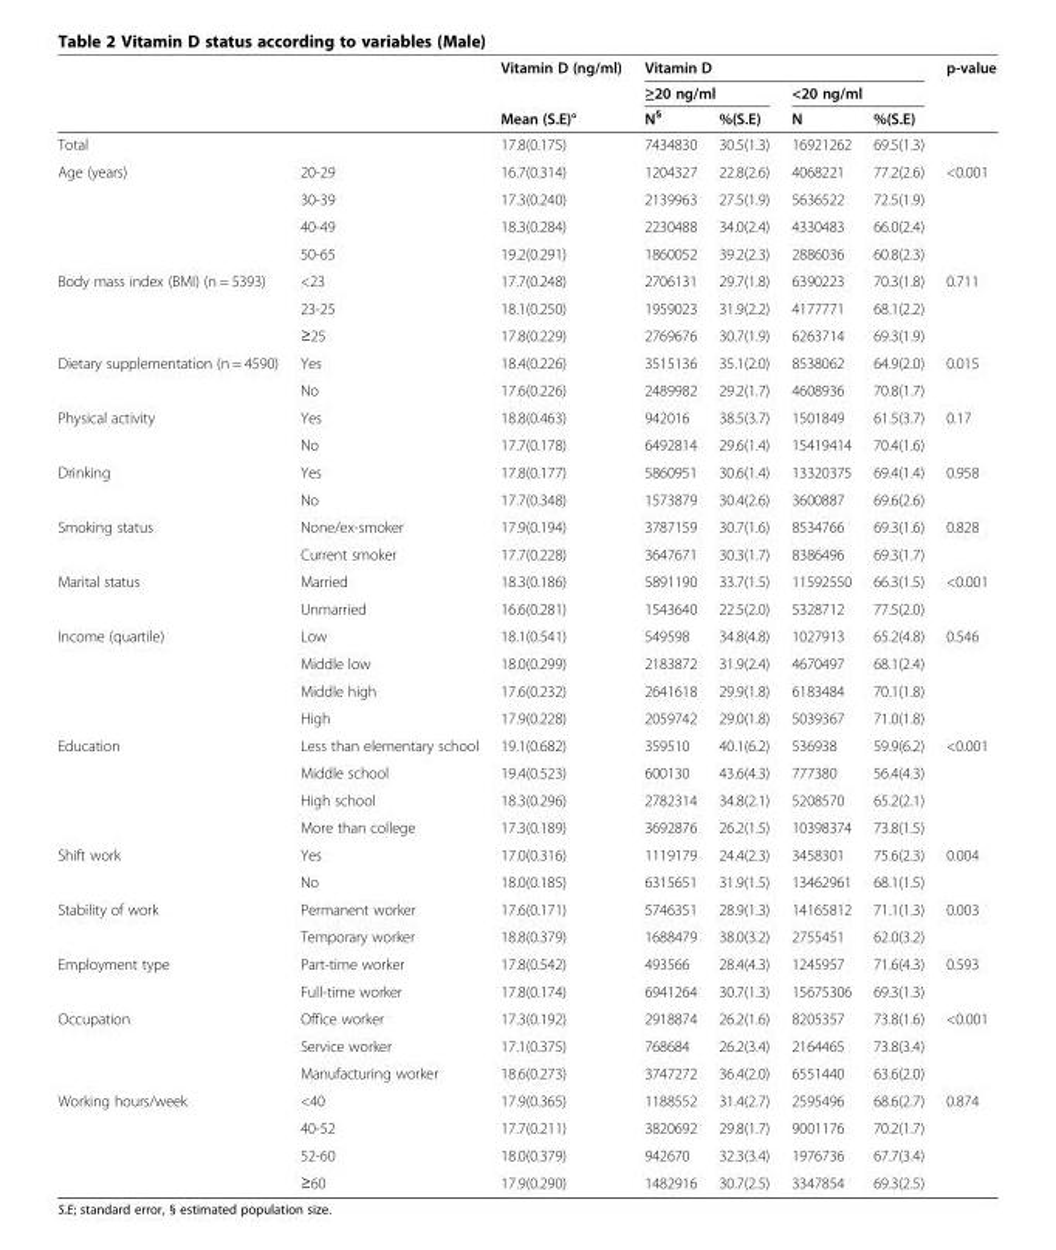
<table><thead><tr><td rowspan="3"></td><td rowspan="3"></td><td rowspan="3">Vitamin D (ng/ml) Mean (S.E)°</td><td colspan="4">Vitamin D</td><td rowspan="3">p-value</td></tr><tr><td colspan="2">≥20 ng/ml</td><td colspan="2">&lt;20 ng/ml</td></tr><tr><td>N<sup>§</sup></td><td>%(S.E)</td><td>N</td><td>%(S.E)</td></tr></thead><tbody><tr><td colspan="2">Total</td><td>17.8(0.175)</td><td>7434830</td><td>30.5(1.3)</td><td>16921262</td><td>69.5(1.3)</td><td></td></tr><tr><td rowspan="4">Age (years)</td><td>20-29</td><td>16.7(0.314)</td><td>1204327</td><td>22.8(2.6)</td><td>4068221</td><td>77.2(2.6)</td><td rowspan="4">&lt;0.001</td></tr><tr><td>30-39</td><td>17.3(0.240)</td><td>2139963</td><td>27.5(1.9)</td><td>5636522</td><td>72.5(1.9)</td></tr><tr><td>40-49</td><td>18.3(0.284)</td><td>2230488</td><td>34.0(2.4)</td><td>4330483</td><td>66.0(2.4)</td></tr><tr><td>50-65</td><td>19.2(0.291)</td><td>1860052</td><td>39.2(2.3)</td><td>2886036</td><td>60.8(2.3)</td></tr><tr><td rowspan="3">Body mass index (BMI) (n = 5393)</td><td>&lt;23</td><td>17.7(0.248)</td><td>2706131</td><td>29.7(1.8)</td><td>6390223</td><td>70.3(1.8)</td><td rowspan="3">0.711</td></tr><tr><td>23-25</td><td>18.1(0.250)</td><td>1959023</td><td>31.9(2.2)</td><td>4177771</td><td>68.1(2.2)</td></tr><tr><td>≥25</td><td>17.8(0.229)</td><td>2769676</td><td>30.7(1.9)</td><td>6263714</td><td>69.3(1.9)</td></tr><tr><td rowspan="2">Dietary supplementation (n = 4590)</td><td>Yes</td><td>18.4(0.226)</td><td>3515136</td><td>35.1(2.0)</td><td>8538062</td><td>64.9(2.0)</td><td rowspan="2">0.015</td></tr><tr><td>No</td><td>17.6(0.226)</td><td>2489982</td><td>29.2(1.7)</td><td>4608936</td><td>70.8(1.7)</td></tr><tr><td rowspan="2">Physical activity</td><td>Yes</td><td>18.8(0.463)</td><td>942016</td><td>38.5(3.7)</td><td>1501849</td><td>61.5(3.7)</td><td rowspan="2">0.17</td></tr><tr><td>No</td><td>17.7(0.178)</td><td>6492814</td><td>29.6(1.4)</td><td>15419414</td><td>70.4(1.6)</td></tr><tr><td rowspan="2">Drinking</td><td>Yes</td><td>17.8(0.177)</td><td>5860951</td><td>30.6(1.4)</td><td>13320375</td><td>69.4(1.4)</td><td rowspan="2">0.958</td></tr><tr><td>No</td><td>17.7(0.348)</td><td>1573879</td><td>30.4(2.6)</td><td>3600887</td><td>69.6(2.6)</td></tr><tr><td rowspan="2">Smoking status</td><td>None/ex-smoker</td><td>17.9(0.194)</td><td>3787159</td><td>30.7(1.6)</td><td>8534766</td><td>69.3(1.6)</td><td rowspan="2">0.828</td></tr><tr><td>Current smoker</td><td>17.7(0.228)</td><td>3647671</td><td>30.3(1.7)</td><td>8386496</td><td>69.3(1.7)</td></tr><tr><td rowspan="2">Marital status</td><td>Married</td><td>18.3(0.186)</td><td>5891190</td><td>33.7(1.5)</td><td>11592550</td><td>66.3(1.5)</td><td rowspan="2">&lt;0.001</td></tr><tr><td>Unmarried</td><td>16.6(0.281)</td><td>1543640</td><td>22.5(2.0)</td><td>5328712</td><td>77.5(2.0)</td></tr><tr><td rowspan="4">Income (quartile)</td><td>Low</td><td>18.1(0.541)</td><td>549598</td><td>34.8(4.8)</td><td>1027913</td><td>65.2(4.8)</td><td rowspan="4">0.546</td></tr><tr><td>Middle low</td><td>18.0(0.299)</td><td>2183872</td><td>31.9(2.4)</td><td>4670497</td><td>68.1(2.4)</td></tr><tr><td>Middle high</td><td>17.6(0.232)</td><td>2641618</td><td>29.9(1.8)</td><td>6183484</td><td>70.1(1.8)</td></tr><tr><td>High</td><td>17.9(0.228)</td><td>2059742</td><td>29.0(1.8)</td><td>5039367</td><td>71.0(1.8)</td></tr><tr><td rowspan="4">Education</td><td>Less than elementary school</td><td>19.1(0.682)</td><td>359510</td><td>40.1(6.2)</td><td>536938</td><td>59.9(6.2)</td><td rowspan="4">&lt;0.001</td></tr><tr><td>Middle school</td><td>19.4(0.523)</td><td>600130</td><td>43.6(4.3)</td><td>777380</td><td>56.4(4.3)</td></tr><tr><td>High school</td><td>18.3(0.296)</td><td>2782314</td><td>34.8(2.1)</td><td>5208570</td><td>65.2(2.1)</td></tr><tr><td>More than college</td><td>17.3(0.189)</td><td>3692876</td><td>26.2(1.5)</td><td>10398374</td><td>73.8(1.5)</td></tr><tr><td rowspan="2">Shift work</td><td>Yes</td><td>17.0(0.316)</td><td>1119179</td><td>24.4(2.3)</td><td>3458301</td><td>75.6(2.3)</td><td rowspan="2">0.004</td></tr><tr><td>No</td><td>18.0(0.185)</td><td>6315651</td><td>31.9(1.5)</td><td>13462961</td><td>68.1(1.5)</td></tr><tr><td rowspan="2">Stability of work</td><td>Permanent worker</td><td>17.6(0.171)</td><td>5746351</td><td>28.9(1.3)</td><td>14165812</td><td>71.1(1.3)</td><td rowspan="2">0.003</td></tr><tr><td>Temporary worker</td><td>18.8(0.379)</td><td>1688479</td><td>38.0(3.2)</td><td>2755451</td><td>62.0(3.2)</td></tr><tr><td rowspan="2">Employment type</td><td>Part-time worker</td><td>17.8(0.542)</td><td>493566</td><td>28.4(4.3)</td><td>1245957</td><td>71.6(4.3)</td><td rowspan="2">0.593</td></tr><tr><td>Full-time worker</td><td>17.8(0.174)</td><td>6941264</td><td>30.7(1.3)</td><td>15675306</td><td>69.3(1.3)</td></tr><tr><td rowspan="3">Occupation</td><td>Office worker</td><td>17.3(0.192)</td><td>2918874</td><td>26.2(1.6)</td><td>8205357</td><td>73.8(1.6)</td><td rowspan="3">&lt;0.001</td></tr><tr><td>Service worker</td><td>17.1(0.375)</td><td>768684</td><td>26.2(3.4)</td><td>2164465</td><td>73.8(3.4)</td></tr><tr><td>Manufacturing worker</td><td>18.6(0.273)</td><td>3747272</td><td>36.4(2.0)</td><td>6551440</td><td>63.6(2.0)</td></tr><tr><td rowspan="4">Working hours/week</td><td>&lt;40</td><td>17.9(0.365)</td><td>1188552</td><td>31.4(2.7)</td><td>2595496</td><td>68.6(2.7)</td><td rowspan="4">0.874</td></tr><tr><td>40-52</td><td>17.7(0.211)</td><td>3820692</td><td>29.8(1.7)</td><td>9001176</td><td>70.2(1.7)</td></tr><tr><td>52-60</td><td>18.0(0.379)</td><td>942670</td><td>32.3(3.4)</td><td>1976736</td><td>67.7(3.4)</td></tr><tr><td>≥60</td><td>17.9(0.290)</td><td>1482916</td><td>30.7(2.5)</td><td>3347854</td><td>69.3(2.5)</td></tr></tbody></table>